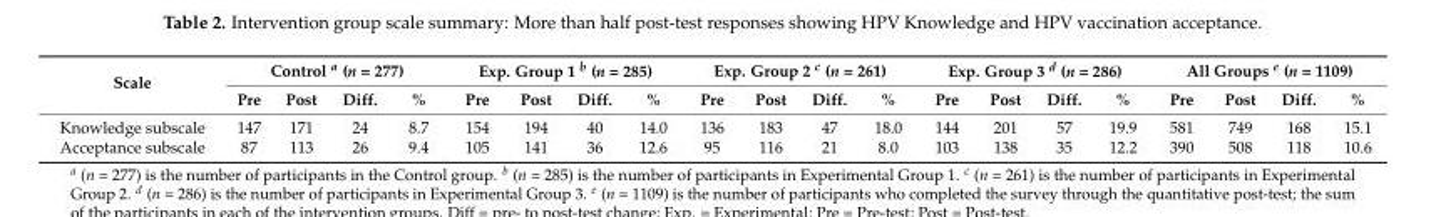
<table><thead><tr><td rowspan="2">Scale</td><td colspan="4">Control <sup>a</sup> (n = 277)</td><td colspan="4">Exp. Group 1 <sup>b</sup> (n = 285)</td><td colspan="4">Exp. Group 2 <sup>c</sup> (n = 261)</td><td colspan="4">Exp. Group 3 <sup>d</sup> (n = 286)</td><td colspan="4">All Groups <sup>e</sup> (n = 1109)</td></tr><tr><td>Pre</td><td>Post</td><td>Diff.</td><td>%</td><td>Pre</td><td>Post</td><td>Diff.</td><td>%</td><td>Pre</td><td>Post</td><td>Diff.</td><td>%</td><td>Pre</td><td>Post</td><td>Diff.</td><td>%</td><td>Pre</td><td>Post</td><td>Diff.</td><td>%</td></tr></thead><tbody><tr><td>Knowledge subscale</td><td>147</td><td>171</td><td>24</td><td>8.7</td><td>154</td><td>194</td><td>40</td><td>14.0</td><td>136</td><td>183</td><td>47</td><td>18.0</td><td>144</td><td>201</td><td>57</td><td>19.9</td><td>581</td><td>749</td><td>168</td><td>15.1</td></tr><tr><td>Acceptance subscale</td><td>87</td><td>113</td><td>26</td><td>9.4</td><td>105</td><td>141</td><td>36</td><td>12.6</td><td>95</td><td>116</td><td>21</td><td>8.0</td><td>103</td><td>138</td><td>35</td><td>12.2</td><td>390</td><td>508</td><td>118</td><td>10.6</td></tr></tbody></table>